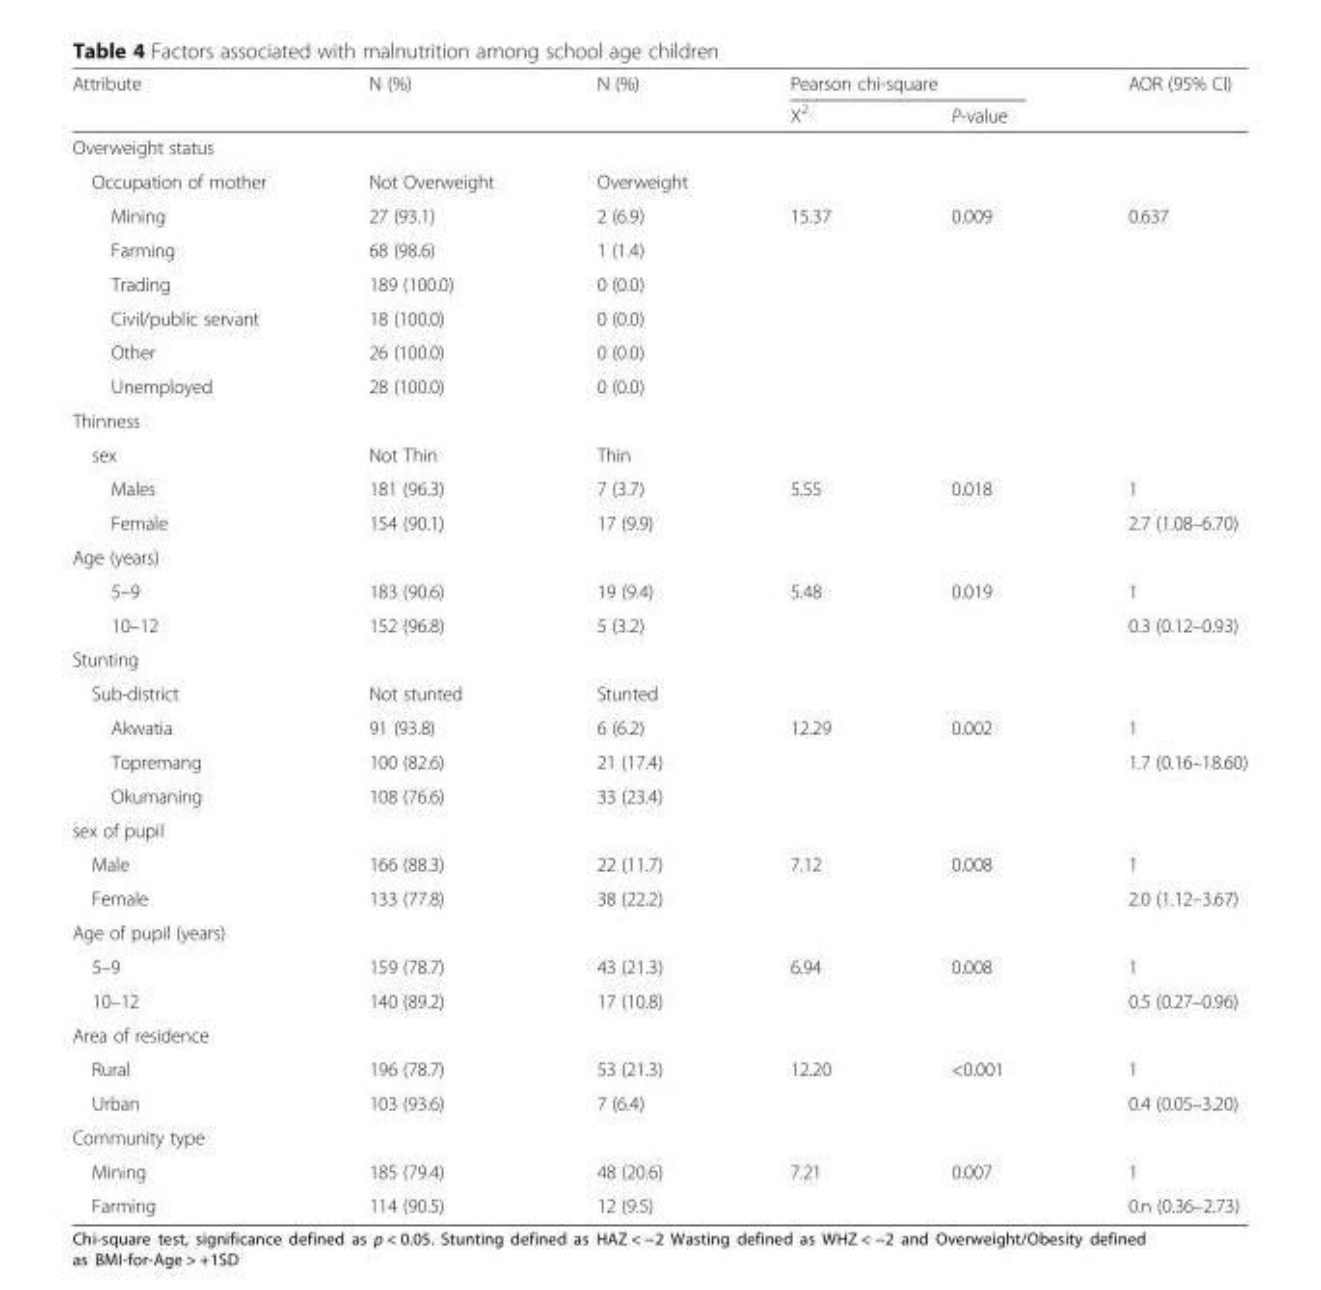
<table><thead><tr><td rowspan="2">Attribute</td><td rowspan="2">N (%)</td><td rowspan="2">N (%)</td><td colspan="2">Pearson chi-square</td><td rowspan="2">AOR (95% CI)</td></tr><tr><td>X<sup>2</sup></td><td>P-value</td></tr></thead><tbody><tr><td colspan="6">Overweight status</td></tr><tr><td>Occupation of mother</td><td>Not Overweight</td><td>Overweight</td><td></td><td></td><td></td></tr><tr><td>Mining</td><td>27 (93.1)</td><td>2 (6.9)</td><td>15.37</td><td>0.009</td><td>0.637</td></tr><tr><td>Farming</td><td>68 (98.6)</td><td>1 (1.4)</td><td></td><td></td><td></td></tr><tr><td>Trading</td><td>189 (100.0)</td><td>0 (0.0)</td><td></td><td></td><td></td></tr><tr><td>Civil/public servant</td><td>18 (100.0)</td><td>0 (0.0)</td><td></td><td></td><td></td></tr><tr><td>Other</td><td>26 (100.0)</td><td>0 (0.0)</td><td></td><td></td><td></td></tr><tr><td>Unemployed</td><td>28 (100.0)</td><td>0 (0.0)</td><td></td><td></td><td></td></tr><tr><td colspan="6">Thinness</td></tr><tr><td>sex</td><td>Not Thin</td><td>Thin</td><td></td><td></td><td></td></tr><tr><td>Males</td><td>181 (96.3)</td><td>7 (3.7)</td><td>5.55</td><td>0.018</td><td>1</td></tr><tr><td>Female</td><td>154 (90.1)</td><td>17 (9.9)</td><td></td><td></td><td>2.7 (1.08–6.70)</td></tr><tr><td colspan="6">Age (years)</td></tr><tr><td>5–9</td><td>183 (90.6)</td><td>19 (9.4)</td><td>5.48</td><td>0.019</td><td>1</td></tr><tr><td>10–12</td><td>152 (96.8)</td><td>5 (3.2)</td><td></td><td></td><td>0.3 (0.12–0.93)</td></tr><tr><td colspan="6">Stunting</td></tr><tr><td>Sub-district</td><td>Not stunted</td><td>Stunted</td><td></td><td></td><td></td></tr><tr><td>Akwatia</td><td>91 (93.8)</td><td>6 (6.2)</td><td>12.29</td><td>0.002</td><td>1</td></tr><tr><td>Topremang</td><td>100 (82.6)</td><td>21 (17.4)</td><td></td><td></td><td>1.7 (0.16–18.60)</td></tr><tr><td>Okumaning</td><td>108 (76.6)</td><td>33 (23.4)</td><td></td><td></td><td></td></tr><tr><td colspan="6">sex of pupil</td></tr><tr><td>Male</td><td>166 (88.3)</td><td>22 (11.7)</td><td>7.12</td><td>0.008</td><td>1</td></tr><tr><td>Female</td><td>133 (77.8)</td><td>38 (22.2)</td><td></td><td></td><td>2.0 (1.12–3.67)</td></tr><tr><td colspan="6">Age of pupil (years)</td></tr><tr><td>5–9</td><td>159 (78.7)</td><td>43 (21.3)</td><td>6.94</td><td>0.008</td><td>1</td></tr><tr><td>10–12</td><td>140 (89.2)</td><td>17 (10.8)</td><td></td><td></td><td>0.5 (0.27–0.96)</td></tr><tr><td colspan="6">Area of residence</td></tr><tr><td>Rural</td><td>196 (78.7)</td><td>53 (21.3)</td><td>12.20</td><td>&lt;0.001</td><td>1</td></tr><tr><td>Urban</td><td>103 (93.6)</td><td>7 (6.4)</td><td></td><td></td><td>0.4 (0.05–3.20)</td></tr><tr><td colspan="6">Community type</td></tr><tr><td>Mining</td><td>185 (79.4)</td><td>48 (20.6)</td><td>7.21</td><td>0.007</td><td>1</td></tr><tr><td>Farming</td><td>114 (90.5)</td><td>12 (9.5)</td><td></td><td></td><td>0.n (0.36–2.73)</td></tr></tbody></table>